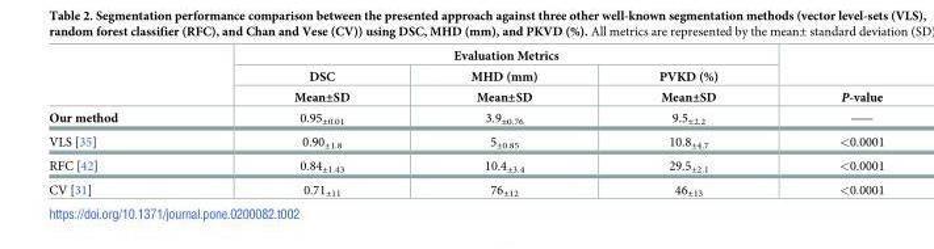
<table><thead><tr><td rowspan="3"></td><td colspan="3">Evaluation Metrics</td><td rowspan="3">P-value</td></tr><tr><td rowspan="2">DSC Mean±SD</td><td rowspan="2">MHD (mm) Mean±SD</td><td rowspan="2">PVKD (%) Mean±SD</td></tr><tr></tr></thead><tbody><tr><td>Our method</td><td>0.95<sub>±0.01</sub></td><td>3.9<sub>±0.76</sub></td><td>9.5<sub>±2.2</sub></td><td>——</td></tr><tr><td>VLS [35]</td><td>0.90<sub>±1.8</sub></td><td>5<sub>±0.85</sub></td><td>10.8<sub>±4.7</sub></td><td>&lt;0.0001</td></tr><tr><td>RFC [42]</td><td>0.84<sub>±1.43</sub></td><td>10.4<sub>±3.4</sub></td><td>29.5<sub>±2.1</sub></td><td>&lt;0.0001</td></tr><tr><td>CV [31]</td><td>0.71<sub>±11</sub></td><td>76<sub>±12</sub></td><td>46<sub>±13</sub></td><td>&lt;0.0001</td></tr></tbody></table>